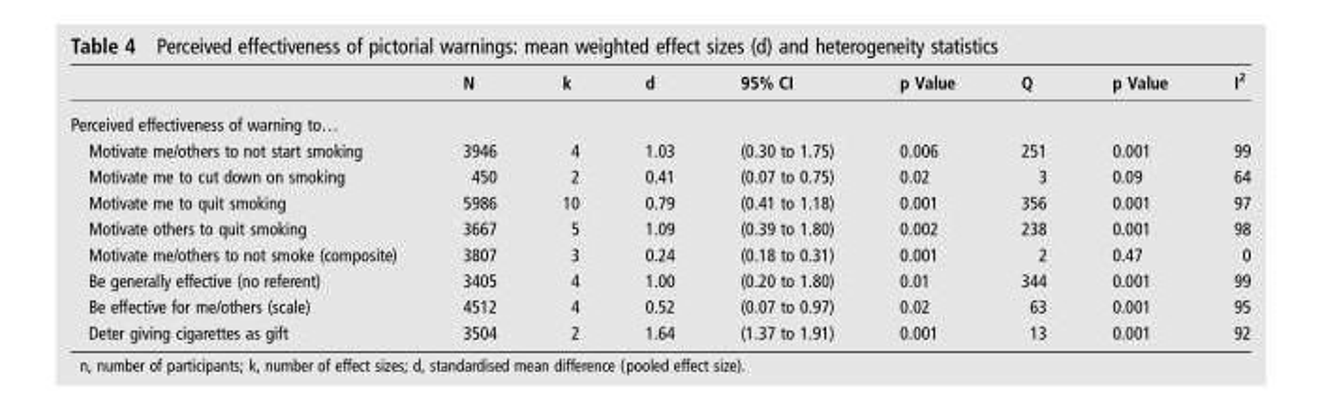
<table><thead><tr><td></td><td>N</td><td>k</td><td>d</td><td>95% CI</td><td>p Value</td><td>Q</td><td>p Value</td><td>I<sup>2</sup></td></tr></thead><tbody><tr><td colspan="9">Perceived effectiveness of warning to…</td></tr><tr><td>Motivate me/others to not start smoking</td><td>3946</td><td>4</td><td>1.03</td><td>(0.30 to 1.75)</td><td>0.006</td><td>251</td><td>0.001</td><td>99</td></tr><tr><td>Motivate me to cut down on smoking</td><td>450</td><td>2</td><td>0.41</td><td>(0.07 to 0.75)</td><td>0.02</td><td>3</td><td>0.09</td><td>64</td></tr><tr><td>Motivate me to quit smoking</td><td>5986</td><td>10</td><td>0.79</td><td>(0.41 to 1.18)</td><td>0.001</td><td>356</td><td>0.001</td><td>97</td></tr><tr><td>Motivate others to quit smoking</td><td>3667</td><td>5</td><td>1.09</td><td>(0.39 to 1.80)</td><td>0.002</td><td>238</td><td>0.001</td><td>98</td></tr><tr><td>Motivate me/others to not smoke (composite)</td><td>3807</td><td>3</td><td>0.24</td><td>(0.18 to 0.31)</td><td>0.001</td><td>2</td><td>0.47</td><td>0</td></tr><tr><td>Be generally effective (no referent)</td><td>3405</td><td>4</td><td>1.00</td><td>(0.20 to 1.80)</td><td>0.01</td><td>344</td><td>0.001</td><td>99</td></tr><tr><td>Be effective for me/others (scale)</td><td>4512</td><td>4</td><td>0.52</td><td>(0.07 to 0.97)</td><td>0.02</td><td>63</td><td>0.001</td><td>95</td></tr><tr><td>Deter giving cigarettes as gift</td><td>3504</td><td>2</td><td>1.64</td><td>(1.37 to 1.91)</td><td>0.001</td><td>13</td><td>0.001</td><td>92</td></tr></tbody></table>